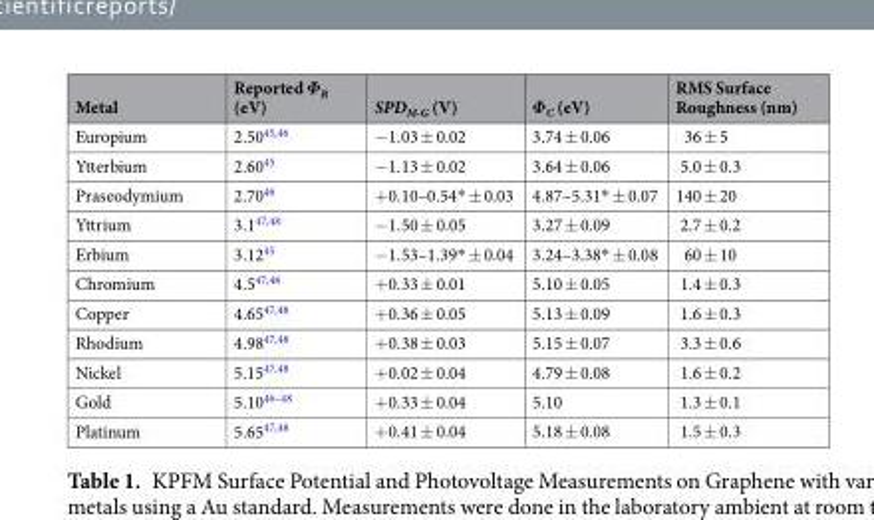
<table><thead><tr><td>Metal</td><td>Reported Φ<sub>R</sub> (eV)</td><td>SPD<sub>M-G</sub> (V)</td><td>Φ<sub>C</sub> (eV)</td><td>RMS Surface Roughness (nm)</td></tr></thead><tbody><tr><td>Europium</td><td>2.50<sup>45,46</sup></td><td>−1.03 ± 0.02</td><td>3.74 ± 0.06</td><td>36 ± 5</td></tr><tr><td>Ytterbium</td><td>2.60<sup>45</sup></td><td>−1.13 ± 0.02</td><td>3.64 ± 0.06</td><td>5.0 ± 0.3</td></tr><tr><td>Praseodymium</td><td>2.70<sup>46</sup></td><td>+0.10–0.54* ± 0.03</td><td>4.87–5.31* ± 0.07</td><td>140 ± 20</td></tr><tr><td>Yttrium</td><td>3.1<sup>47,48</sup></td><td>−1.50 ± 0.05</td><td>3.27 ± 0.09</td><td>2.7 ± 0.2</td></tr><tr><td>Erbium</td><td>3.12<sup>45</sup></td><td>−1.53–1.39* ± 0.04</td><td>3.24–3.38* ± 0.08</td><td>60 ± 10</td></tr><tr><td>Chromium</td><td>4.5<sup>47,48</sup></td><td>+0.33 ± 0.01</td><td>5.10 ± 0.05</td><td>1.4 ± 0.3</td></tr><tr><td>Copper</td><td>4.65<sup>47,48</sup></td><td>+0.36 ± 0.05</td><td>5.13 ± 0.09</td><td>1.6 ± 0.3</td></tr><tr><td>Rhodium</td><td>4.98<sup>47,48</sup></td><td>+0.38 ± 0.03</td><td>5.15 ± 0.07</td><td>3.3 ± 0.6</td></tr><tr><td>Nickel</td><td>5.15<sup>47,48</sup></td><td>+0.02 ± 0.04</td><td>4.79 ± 0.08</td><td>1.6 ± 0.2</td></tr><tr><td>Gold</td><td>5.10<sup>46–48</sup></td><td>+0.33 ± 0.04</td><td>5.10</td><td>1.3 ± 0.1</td></tr><tr><td>Platinum</td><td>5.65<sup>47,48</sup></td><td>+0.41 ± 0.04</td><td>5.18 ± 0.08</td><td>1.5 ± 0.3</td></tr></tbody></table>